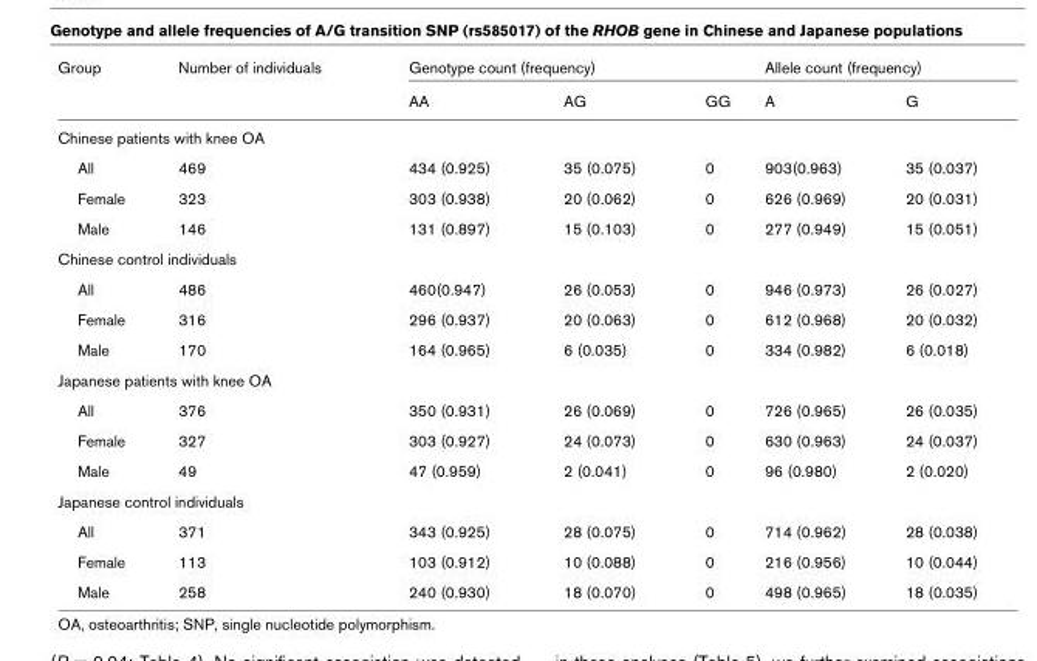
<table><thead><tr><td rowspan="2">Group</td><td rowspan="2">Number of individuals</td><td colspan="2">Genotype count (frequency)</td><td rowspan="2">GG</td><td colspan="2">Allele count (frequency)</td></tr><tr><td>AA</td><td>AG</td><td>A</td><td>G</td></tr></thead><tbody><tr><td colspan="7">Chinese patients with knee OA</td></tr><tr><td>All</td><td>469</td><td>434 (0.925)</td><td>35 (0.075)</td><td>0</td><td>903(0.963)</td><td>35 (0.037)</td></tr><tr><td>Female</td><td>323</td><td>303 (0.938)</td><td>20 (0.062)</td><td>0</td><td>626 (0.969)</td><td>20 (0.031)</td></tr><tr><td>Male</td><td>146</td><td>131 (0.897)</td><td>15 (0.103)</td><td>0</td><td>277 (0.949)</td><td>15 (0.051)</td></tr><tr><td colspan="7">Chinese control individuals</td></tr><tr><td>All</td><td>486</td><td>460(0.947)</td><td>26 (0.053)</td><td>0</td><td>946 (0.973)</td><td>26 (0.027)</td></tr><tr><td>Female</td><td>316</td><td>296 (0.937)</td><td>20 (0.063)</td><td>0</td><td>612 (0.968)</td><td>20 (0.032)</td></tr><tr><td>Male</td><td>170</td><td>164 (0.965)</td><td>6 (0.035)</td><td>0</td><td>334 (0.982)</td><td>6 (0.018)</td></tr><tr><td colspan="7">Japanese patients with knee OA</td></tr><tr><td>All</td><td>376</td><td>350 (0.931)</td><td>26 (0.069)</td><td>0</td><td>726 (0.965)</td><td>26 (0.035)</td></tr><tr><td>Female</td><td>327</td><td>303 (0.927)</td><td>24 (0.073)</td><td>0</td><td>630 (0.963)</td><td>24 (0.037)</td></tr><tr><td>Male</td><td>49</td><td>47 (0.959)</td><td>2 (0.041)</td><td>0</td><td>96 (0.980)</td><td>2 (0.020)</td></tr><tr><td colspan="7">Japanese control individuals</td></tr><tr><td>All</td><td>371</td><td>343 (0.925)</td><td>28 (0.075)</td><td>0</td><td>714 (0.962)</td><td>28 (0.038)</td></tr><tr><td>Female</td><td>113</td><td>103 (0.912)</td><td>10 (0.088)</td><td>0</td><td>216 (0.956)</td><td>10 (0.044)</td></tr><tr><td>Male</td><td>258</td><td>240 (0.930)</td><td>18 (0.070)</td><td>0</td><td>498 (0.965)</td><td>18 (0.035)</td></tr></tbody></table>